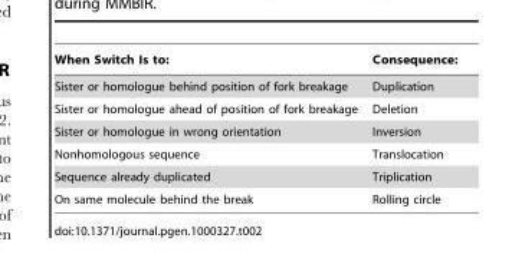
<table><thead><tr><td>When Switch Is to:</td><td>Consequence:</td></tr></thead><tbody><tr><td>Sister or homologue behind position of fork breakage</td><td>Duplication</td></tr><tr><td>Sister or homologue ahead of position of fork breakage</td><td>Deletion</td></tr><tr><td>Sister or homologue in wrong orientation</td><td>Inversion</td></tr><tr><td>Nonhomologous sequence</td><td>Translocation</td></tr><tr><td>Sequence already duplicated</td><td>Triplication</td></tr><tr><td>On same molecule behind the break</td><td>Rolling circle</td></tr></tbody></table>